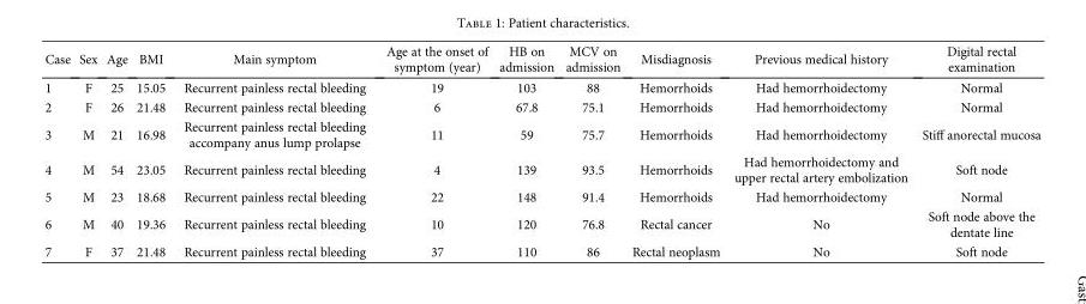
<table><thead><tr><td>Case</td><td>Sex</td><td>Age</td><td>BMI</td><td>Main symptom</td><td>Age at the onset of symptom (year)</td><td>HB on admission</td><td>MCV on admission</td><td>Misdiagnosis</td><td>Previous medical history</td><td>Digital rectal examination</td></tr></thead><tbody><tr><td>1</td><td>F</td><td>25</td><td>15.05</td><td>Recurrent painless rectal bleeding</td><td>19</td><td>103</td><td>88</td><td>Hemorrhoids</td><td>Had hemorrhoidectomy</td><td>Normal</td></tr><tr><td>2</td><td>F</td><td>26</td><td>21.48</td><td>Recurrent painless rectal bleeding</td><td>6</td><td>67.8</td><td>75.1</td><td>Hemorrhoids</td><td>Had hemorrhoidectomy</td><td>Normal</td></tr><tr><td>3</td><td>M</td><td>21</td><td>16.98</td><td>Recurrent painless rectal bleeding accompany anus lump prolapse</td><td>11</td><td>59</td><td>75.7</td><td>Hemorrhoids</td><td>Had hemorrhoidectomy</td><td>Stiff anorectal mucosa</td></tr><tr><td>4</td><td>M</td><td>54</td><td>23.05</td><td>Recurrent painless rectal bleeding</td><td>4</td><td>139</td><td>93.5</td><td>Hemorrhoids</td><td>Had hemorrhoidectomy and upper rectal artery embolization</td><td>Soft node</td></tr><tr><td>5</td><td>M</td><td>23</td><td>18.68</td><td>Recurrent painless rectal bleeding</td><td>22</td><td>148</td><td>91.4</td><td>Hemorrhoids</td><td>Had hemorrhoidectomy</td><td>Normal</td></tr><tr><td>6</td><td>M</td><td>40</td><td>19.36</td><td>Recurrent painless rectal bleeding</td><td>10</td><td>120</td><td>76.8</td><td>Rectal cancer</td><td>No</td><td>Soft node above the dentate line</td></tr><tr><td>7</td><td>F</td><td>37</td><td>21.48</td><td>Recurrent painless rectal bleeding</td><td>37</td><td>110</td><td>86</td><td>Rectal neoplasm</td><td>No</td><td>Soft node</td></tr></tbody></table>